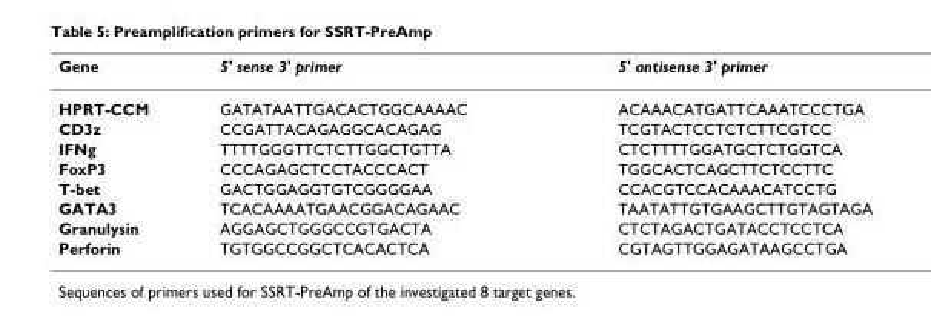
<table><thead><tr><td>Gene</td><td>5&#x27; sense 3&#x27; primer</td><td>5&#x27; antisense 3&#x27; primer</td></tr></thead><tbody><tr><td>HPRT-CCM</td><td>GATATAATTGACACTGGCAAAAC</td><td>ACAAACATGATTCAAATCCCTGA</td></tr><tr><td>CD3z</td><td>CCGATTACAGAGGCACAGAG</td><td>TCGTACTCCTCTCTTCGTCC</td></tr><tr><td>IFNg</td><td>TTTTGGGTTCTCTTGGCTGTTA</td><td>CTCTTTTGGATGCTCTGGTCA</td></tr><tr><td>FoxP3</td><td>CCCAGAGCTCCTACCCACT</td><td>TGGCACTCAGCTTCTCCTTC</td></tr><tr><td>T-bet</td><td>GACTGGAGGTGTCGGGGAA</td><td>CCACGTCCACAAACATCCTG</td></tr><tr><td>GATA3</td><td>TCACAAAATGAACGGACAGAAC</td><td>TAATATTGTGAAGCTTGTAGTAGA</td></tr><tr><td>Granulysin</td><td>AGGAGCTGGGCCGTGACTA</td><td>CTCTAGACTGATACCTCCTCA</td></tr><tr><td>Perforin</td><td>TGTGGCCGGCTCACACTCA</td><td>CGTAGTTGGAGATAAGCCTGA</td></tr></tbody></table>